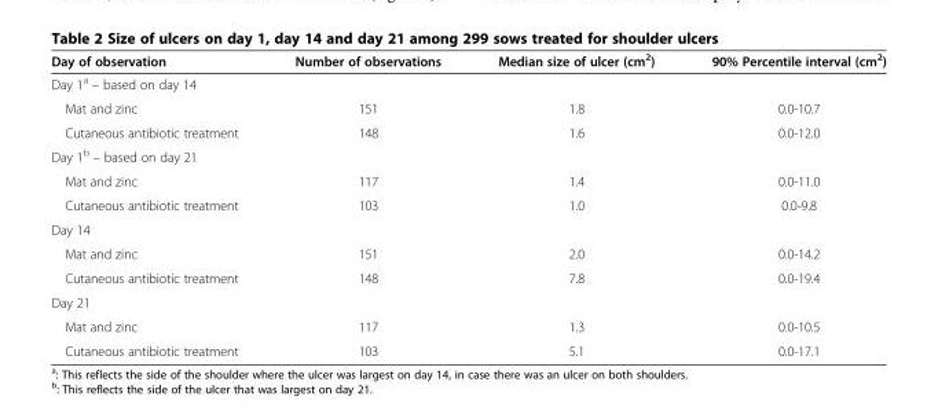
<table><thead><tr><td>Day of observation</td><td>Number of observations</td><td>Median size of ulcer (cm<sup>2</sup>)</td><td>90% Percentile interval (cm<sup>2</sup>)</td></tr></thead><tbody><tr><td colspan="4">Day 1<sup>a</sup> – based on day 14</td></tr><tr><td>Mat and zinc</td><td>151</td><td>1.8</td><td>0.0-10.7</td></tr><tr><td>Cutaneous antibiotic treatment</td><td>148</td><td>1.6</td><td>0.0-12.0</td></tr><tr><td colspan="4">Day 1<sup>b</sup> – based on day 21</td></tr><tr><td>Mat and zinc</td><td>117</td><td>1.4</td><td>0.0-11.0</td></tr><tr><td>Cutaneous antibiotic treatment</td><td>103</td><td>1.0</td><td>0.0-9.8</td></tr><tr><td colspan="4">Day 14</td></tr><tr><td>Mat and zinc</td><td>151</td><td>2.0</td><td>0.0-14.2</td></tr><tr><td>Cutaneous antibiotic treatment</td><td>148</td><td>7.8</td><td>0.0-19.4</td></tr><tr><td colspan="4">Day 21</td></tr><tr><td>Mat and zinc</td><td>117</td><td>1.3</td><td>0.0-10.5</td></tr><tr><td>Cutaneous antibiotic treatment</td><td>103</td><td>5.1</td><td>0.0-17.1</td></tr></tbody></table>